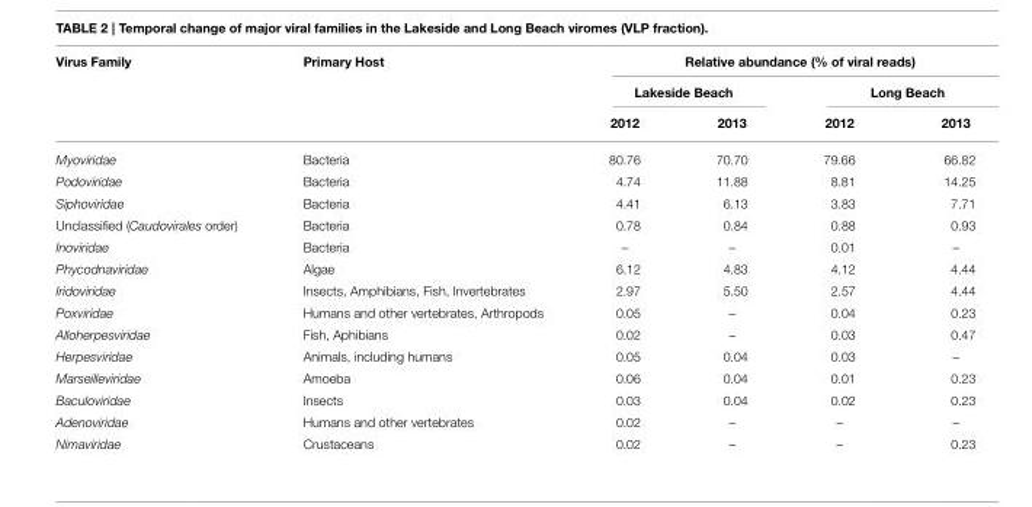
<table><thead><tr><td rowspan="3">Virus Family</td><td rowspan="3">Primary Host</td><td colspan="4">Relative abundance (% of viral reads)</td></tr><tr><td colspan="2">Lakeside Beach</td><td colspan="2">Long Beach</td></tr><tr><td>2012</td><td>2013</td><td>2012</td><td>2013</td></tr></thead><tbody><tr><td>Myoviridae</td><td>Bacteria</td><td>80.76</td><td>70.70</td><td>79.66</td><td>66.82</td></tr><tr><td>Podoviridae</td><td>Bacteria</td><td>4.74</td><td>11.88</td><td>8.81</td><td>14.25</td></tr><tr><td>Siphoviridae</td><td>Bacteria</td><td>4.41</td><td>6.13</td><td>3.83</td><td>7.71</td></tr><tr><td>Unclassified (Caudovirales order)</td><td>Bacteria</td><td>0.78</td><td>0.84</td><td>0.88</td><td>0.93</td></tr><tr><td>Inoviridae</td><td>Bacteria</td><td>–</td><td>–</td><td>0.01</td><td>–</td></tr><tr><td>Phycodnaviridae</td><td>Algae</td><td>6.12</td><td>4.83</td><td>4.12</td><td>4.44</td></tr><tr><td>Iridoviridae</td><td>Insects, Amphibians, Fish, Invertebrates</td><td>2.97</td><td>5.50</td><td>2.57</td><td>4.44</td></tr><tr><td>Poxviridae</td><td>Humans and other vertebrates, Arthropods</td><td>0.05</td><td>–</td><td>0.04</td><td>0.23</td></tr><tr><td>Alloherpesviridae</td><td>Fish, Aphibians</td><td>0.02</td><td>–</td><td>0.03</td><td>0.47</td></tr><tr><td>Herpesviridae</td><td>Animals, including humans</td><td>0.05</td><td>0.04</td><td>0.03</td><td>–</td></tr><tr><td>Marseilleviridae</td><td>Amoeba</td><td>0.06</td><td>0.04</td><td>0.01</td><td>0.23</td></tr><tr><td>Baculoviridae</td><td>Insects</td><td>0.03</td><td>0.04</td><td>0.02</td><td>0.23</td></tr><tr><td>Adenoviridae</td><td>Humans and other vertebrates</td><td>0.02</td><td>–</td><td>–</td><td>–</td></tr><tr><td>Nimaviridae</td><td>Crustaceans</td><td>0.02</td><td>–</td><td>–</td><td>0.23</td></tr></tbody></table>